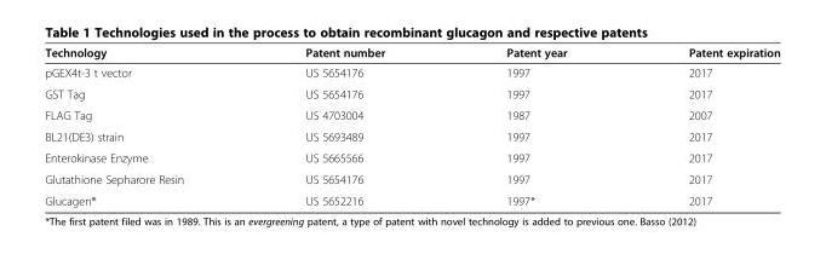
<table><thead><tr><td>Technology</td><td>Patent number</td><td>Patent year</td><td>Patent expiration</td></tr></thead><tbody><tr><td>pGEX4t-3 t vector</td><td>US 5654176</td><td>1997</td><td>2017</td></tr><tr><td>GST Tag</td><td>US 5654176</td><td>1997</td><td>2017</td></tr><tr><td>FLAG Tag</td><td>US 4703004</td><td>1987</td><td>2007</td></tr><tr><td>BL21(DE3) strain</td><td>US 5693489</td><td>1997</td><td>2017</td></tr><tr><td>Enterokinase Enzyme</td><td>US 5665566</td><td>1997</td><td>2017</td></tr><tr><td>Glutathione Sepharore Resin</td><td>US 5654176</td><td>1997</td><td>2017</td></tr><tr><td>Glucagen®</td><td>US 5652216</td><td>1997*</td><td>2017</td></tr></tbody></table>